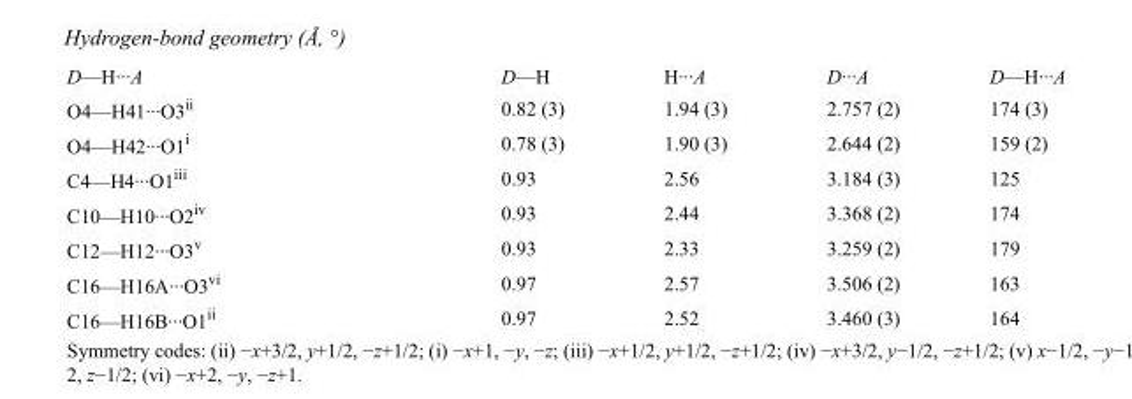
<table><tbody><tr><td>D—H···A</td><td>D—H</td><td>H···A</td><td>D···A</td><td>D—H···A</td></tr><tr><td>O4—H41···O3<sup>ii</sup></td><td>0.82 (3)</td><td>1.94 (3)</td><td>2.757 (2)</td><td>174 (3)</td></tr><tr><td>O4—H42···O1<sup>i</sup></td><td>0.78 (3)</td><td>1.90 (3)</td><td>2.644 (2)</td><td>159 (2)</td></tr><tr><td>C4—H4···O1<sup>iii</sup></td><td>0.93</td><td>2.56</td><td>3.184 (3)</td><td>125</td></tr><tr><td>C10—H10···O2<sup>iv</sup></td><td>0.93</td><td>2.44</td><td>3.368 (2)</td><td>174</td></tr><tr><td>C12—H12···O3<sup>v</sup></td><td>0.93</td><td>2.33</td><td>3.259 (2)</td><td>179</td></tr><tr><td>C16—H16A···O3<sup>vi</sup></td><td>0.97</td><td>2.57</td><td>3.506 (2)</td><td>163</td></tr><tr><td>C16—H16B···O1<sup>ii</sup></td><td>0.97</td><td>2.52</td><td>3.460 (3)</td><td>164</td></tr></tbody></table>